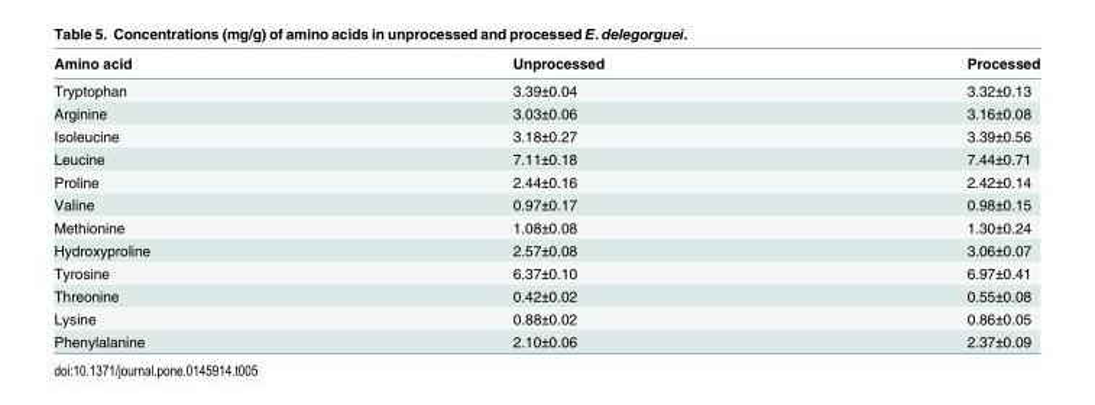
<table><thead><tr><td>Amino acid</td><td>Unprocessed</td><td>Processed</td></tr></thead><tbody><tr><td>Tryptophan</td><td>3.39±0.04</td><td>3.32±0.13</td></tr><tr><td>Arginine</td><td>3.03±0.06</td><td>3.16±0.08</td></tr><tr><td>Isoleucine</td><td>3.18±0.27</td><td>3.39±0.56</td></tr><tr><td>Leucine</td><td>7.11±0.18</td><td>7.44±0.71</td></tr><tr><td>Proline</td><td>2.44±0.16</td><td>2.42±0.14</td></tr><tr><td>Valine</td><td>0.97±0.17</td><td>0.98±0.15</td></tr><tr><td>Methionine</td><td>1.08±0.08</td><td>1.30±0.24</td></tr><tr><td>Hydroxyproline</td><td>2.57±0.08</td><td>3.06±0.07</td></tr><tr><td>Tyrosine</td><td>6.37±0.10</td><td>6.97±0.41</td></tr><tr><td>Threonine</td><td>0.42±0.02</td><td>0.55±0.08</td></tr><tr><td>Lysine</td><td>0.88±0.02</td><td>0.86±0.05</td></tr><tr><td>Phenylalanine</td><td>2.10±0.06</td><td>2.37±0.09</td></tr></tbody></table>